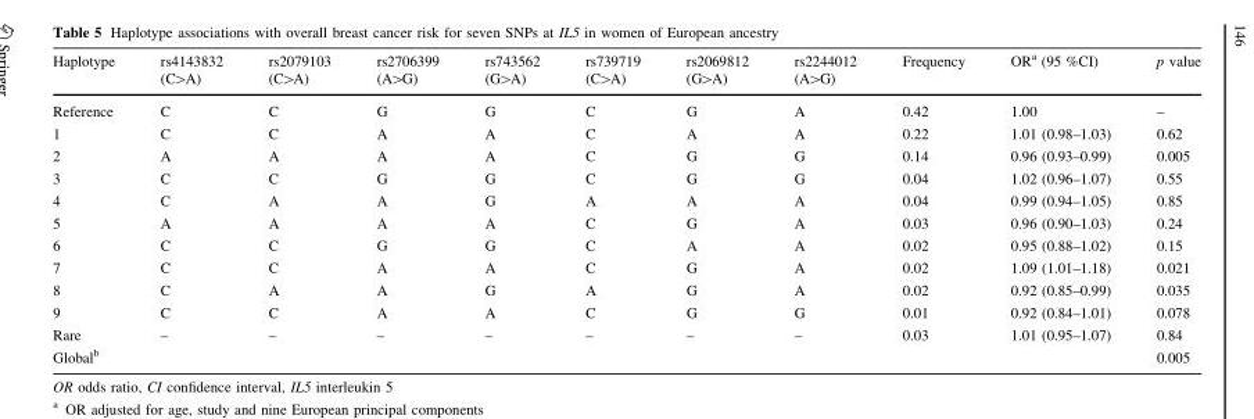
<table><thead><tr><td>Haplotype</td><td>rs4143832 (C&gt;A)</td><td>rs2079103 (C&gt;A)</td><td>rs2706399 (A&gt;G)</td><td>rs743562 (G&gt;A)</td><td>rs739719 (C&gt;A)</td><td>rs2069812 (G&gt;A)</td><td>rs2244012 (A&gt;G)</td><td>Frequency</td><td>OR<sup>a</sup> (95 %CI)</td><td>p value</td></tr></thead><tbody><tr><td>Reference</td><td>C</td><td>C</td><td>G</td><td>G</td><td>C</td><td>G</td><td>A</td><td>0.42</td><td>1.00</td><td>–</td></tr><tr><td>1</td><td>C</td><td>C</td><td>A</td><td>A</td><td>C</td><td>A</td><td>A</td><td>0.22</td><td>1.01 (0.98–1.03)</td><td>0.62</td></tr><tr><td>2</td><td>A</td><td>A</td><td>A</td><td>A</td><td>C</td><td>G</td><td>G</td><td>0.14</td><td>0.96 (0.93–0.99)</td><td>0.005</td></tr><tr><td>3</td><td>C</td><td>C</td><td>G</td><td>G</td><td>C</td><td>G</td><td>G</td><td>0.04</td><td>1.02 (0.96–1.07)</td><td>0.55</td></tr><tr><td>4</td><td>C</td><td>A</td><td>A</td><td>G</td><td>A</td><td>A</td><td>A</td><td>0.04</td><td>0.99 (0.94–1.05)</td><td>0.85</td></tr><tr><td>5</td><td>A</td><td>A</td><td>A</td><td>A</td><td>C</td><td>G</td><td>A</td><td>0.03</td><td>0.96 (0.90–1.03)</td><td>0.24</td></tr><tr><td>6</td><td>C</td><td>C</td><td>G</td><td>G</td><td>C</td><td>A</td><td>A</td><td>0.02</td><td>0.95 (0.88–1.02)</td><td>0.15</td></tr><tr><td>7</td><td>C</td><td>C</td><td>A</td><td>A</td><td>C</td><td>G</td><td>A</td><td>0.02</td><td>1.09 (1.01–1.18)</td><td>0.021</td></tr><tr><td>8</td><td>C</td><td>A</td><td>A</td><td>G</td><td>A</td><td>G</td><td>A</td><td>0.02</td><td>0.92 (0.85–0.99)</td><td>0.035</td></tr><tr><td>9</td><td>C</td><td>C</td><td>A</td><td>A</td><td>C</td><td>G</td><td>G</td><td>0.01</td><td>0.92 (0.84–1.01)</td><td>0.078</td></tr><tr><td>Rare</td><td>–</td><td>–</td><td>–</td><td>–</td><td>–</td><td>–</td><td>–</td><td>0.03</td><td>1.01 (0.95–1.07)</td><td>0.84</td></tr><tr><td>Global<sup>b</sup></td><td></td><td></td><td></td><td></td><td></td><td></td><td></td><td></td><td></td><td>0.005</td></tr></tbody></table>